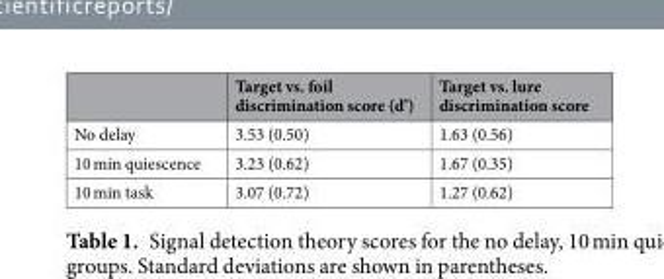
<table><thead><tr><td></td><td>Target vs. foil discrimination score (d’)</td><td>Target vs. lure discrimination score</td></tr></thead><tbody><tr><td>No delay</td><td>3.53 (0.50)</td><td>1.63 (0.56)</td></tr><tr><td>10 min quiescence</td><td>3.23 (0.62)</td><td>1.67 (0.35)</td></tr><tr><td>10 min task</td><td>3.07 (0.72)</td><td>1.27 (0.62)</td></tr></tbody></table>